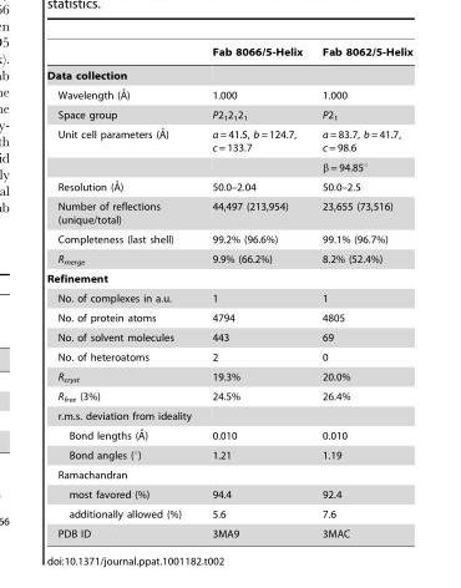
<table><thead><tr><td></td><td>Fab 8066/5-Helix</td><td>Fab 8062/5-Helix</td></tr></thead><tbody><tr><td colspan="3">Data collection</td></tr><tr><td>Wavelength (A˚)</td><td>1.000</td><td>1.000</td></tr><tr><td>Space group</td><td>P2<sub>1</sub>2<sub>1</sub>2<sub>1</sub></td><td>P2<sub>1</sub></td></tr><tr><td rowspan="2">Unit cell parameters (A˚)</td><td>a = 41.5, b = 124.7, c = 133.7</td><td>a = 83.7, b = 41.7, c = 98.6</td></tr><tr><td></td><td>β = 94.85°</td></tr><tr><td>Resolution (A˚)</td><td>50.0–2.04</td><td>50.0–2.5</td></tr><tr><td>Number of reflections (unique/total)</td><td>44,497 (213,954)</td><td>23,655 (73,516)</td></tr><tr><td>Completeness (last shell)</td><td>99.2% (96.6%)</td><td>99.1% (96.7%)</td></tr><tr><td>R<sub>merge</sub></td><td>9.9% (66.2%)</td><td>8.2% (52.4%)</td></tr><tr><td colspan="3">Refinement</td></tr><tr><td>No. of complexes in a.u.</td><td>1</td><td>1</td></tr><tr><td>No. of protein atoms</td><td>4794</td><td>4805</td></tr><tr><td>No. of solvent molecules</td><td>443</td><td>69</td></tr><tr><td>No. of heteroatoms</td><td>2</td><td>0</td></tr><tr><td>R<sub>cryst</sub></td><td>19.3%</td><td>20.0%</td></tr><tr><td>R<sub>free</sub> (3%)</td><td>24.5%</td><td>26.4%</td></tr><tr><td colspan="3">r.m.s. deviation from ideality</td></tr><tr><td>Bond lengths (A˚)</td><td>0.010</td><td>0.010</td></tr><tr><td>Bond angles (°)</td><td>1.21</td><td>1.19</td></tr><tr><td colspan="3">Ramachandran</td></tr><tr><td>most favored (%)</td><td>94.4</td><td>92.4</td></tr><tr><td>additionally allowed (%)</td><td>5.6</td><td>7.6</td></tr><tr><td>PDB ID</td><td>3MA9</td><td>3MAC</td></tr></tbody></table>